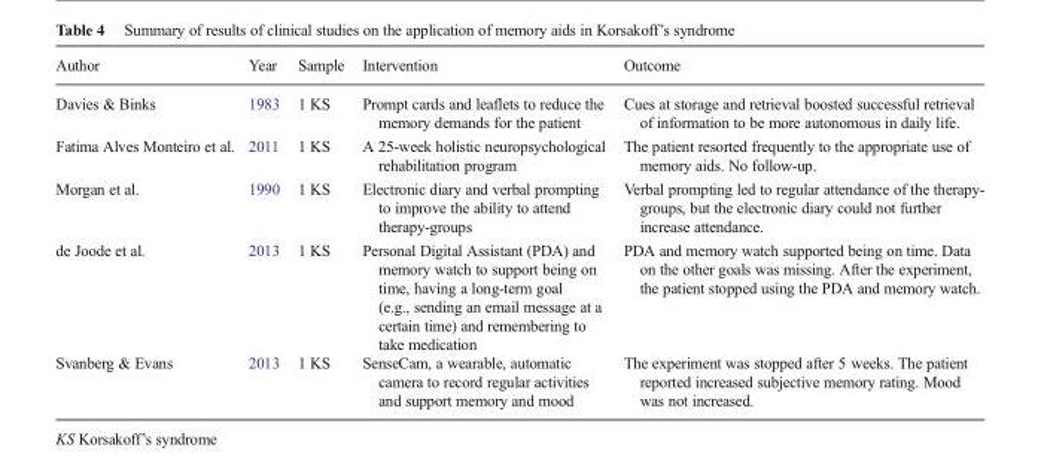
<table><thead><tr><td>Author</td><td>Year</td><td>Sample</td><td>Intervention</td><td>Outcome</td></tr></thead><tbody><tr><td>Davies &amp; Binks</td><td>1983</td><td>1 KS</td><td>Prompt cards and leaflets to reduce the memory demands for the patient</td><td>Cues at storage and retrieval boosted successful retrieval of information to be more autonomous in daily life.</td></tr><tr><td>Fatima Alves Monteiro et al.</td><td>2011</td><td>1 KS</td><td>A 25-week holistic neuropsychological rehabilitation program</td><td>The patient resorted frequently to the appropriate use of memory aids. No follow-up.</td></tr><tr><td>Morgan et al.</td><td>1990</td><td>1 KS</td><td>Electronic diary and verbal prompting to improve the ability to attend therapy-groups</td><td>Verbal prompting led to regular attendance of the therapy- groups, but the electronic diary could not further increase attendance.</td></tr><tr><td>de Joode et al.</td><td>2013</td><td>1 KS</td><td>Personal Digital Assistant (PDA) and memory watch to support being on time, having a long-term goal (e.g., sending an email message at a certain time) and remembering to take medication</td><td>PDA and memory watch supported being on time. Data on the other goals was missing. After the experiment, the patient stopped using the PDA and memory watch.</td></tr><tr><td>Svanberg &amp; Evans</td><td>2013</td><td>1 KS</td><td>SenseCam, a wearable, automatic camera to record regular activities and support memory and mood</td><td>The experiment was stopped after 5 weeks. The patient reported increased subjective memory rating. Mood was not increased.</td></tr></tbody></table>